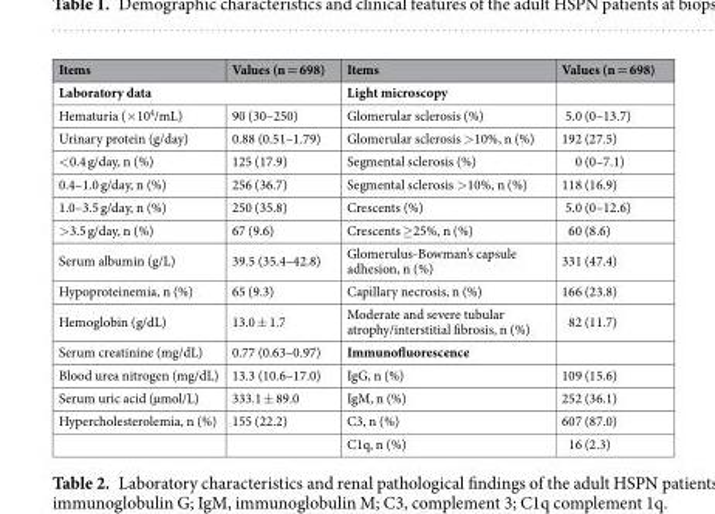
<table><thead><tr><td>Items</td><td>Values (n = 698)</td><td>Items</td><td>Values (n = 698)</td></tr></thead><tbody><tr><td colspan="2">Laboratory data</td><td>Light microscopy</td><td></td></tr><tr><td>Hematuria (×10<sup>4</sup>/mL)</td><td>90 (30–250)</td><td>Glomerular sclerosis (%)</td><td>5.0 (0–13.7)</td></tr><tr><td>Urinary protein (g/day)</td><td>0.88 (0.51–1.79)</td><td>Glomerular sclerosis &gt;10%, n (%)</td><td>192 (27.5)</td></tr><tr><td>&lt;0.4 g/day, n (%)</td><td>125 (17.9)</td><td>Segmental sclerosis (%)</td><td>0 (0–7.1)</td></tr><tr><td>0.4–1.0 g/day, n (%)</td><td>256 (36.7)</td><td>Segmental sclerosis &gt;10%, n (%)</td><td>118 (16.9)</td></tr><tr><td>1.0–3.5 g/day, n (%)</td><td>250 (35.8)</td><td>Crescents (%)</td><td>5.0 (0–12.6)</td></tr><tr><td>&gt;3.5 g/day, n (%)</td><td>67 (9.6)</td><td>Crescents ≥25%, n (%)</td><td>60 (8.6)</td></tr><tr><td>Serum albumin (g/L)</td><td>39.5 (35.4–42.8)</td><td>Glomerulus-Bowman’s capsule adhesion, n (%)</td><td>331 (47.4)</td></tr><tr><td>Hypoproteinemia, n (%)</td><td>65 (9.3)</td><td>Capillary necrosis, n (%)</td><td>166 (23.8)</td></tr><tr><td>Hemoglobin (g/dL)</td><td>13.0 ± 1.7</td><td>Moderate and severe tubular atrophy/interstitial fibrosis, n (%)</td><td>82 (11.7)</td></tr><tr><td>Serum creatinine (mg/dL)</td><td>0.77 (0.63–0.97)</td><td>Immunofluorescence</td><td></td></tr><tr><td>Blood urea nitrogen (mg/dL)</td><td>13.3 (10.6–17.0)</td><td>IgG, n (%)</td><td>109 (15.6)</td></tr><tr><td>Serum uric acid (µmol/L)</td><td>333.1 ± 89.0</td><td>IgM, n (%)</td><td>252 (36.1)</td></tr><tr><td rowspan="2">Hypercholesterolemia, n (%)</td><td>155 (22.2)</td><td>C3, n (%)</td><td>607 (87.0)</td></tr><tr><td></td><td>C1q, n (%)</td><td>16 (2.3)</td></tr></tbody></table>